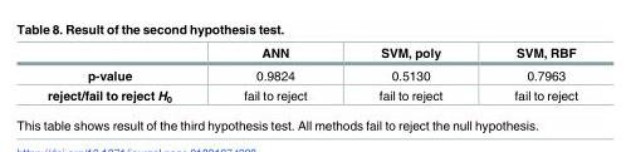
<table><thead><tr><td></td><td>ANN</td><td>SVM, poly</td><td>SVM, RBF</td></tr></thead><tbody><tr><td>p-value</td><td>0.9824</td><td>0.5130</td><td>0.7963</td></tr><tr><td>reject/fail to reject H<sub>0</sub></td><td>fail to reject</td><td>fail to reject</td><td>fail to reject</td></tr></tbody></table>